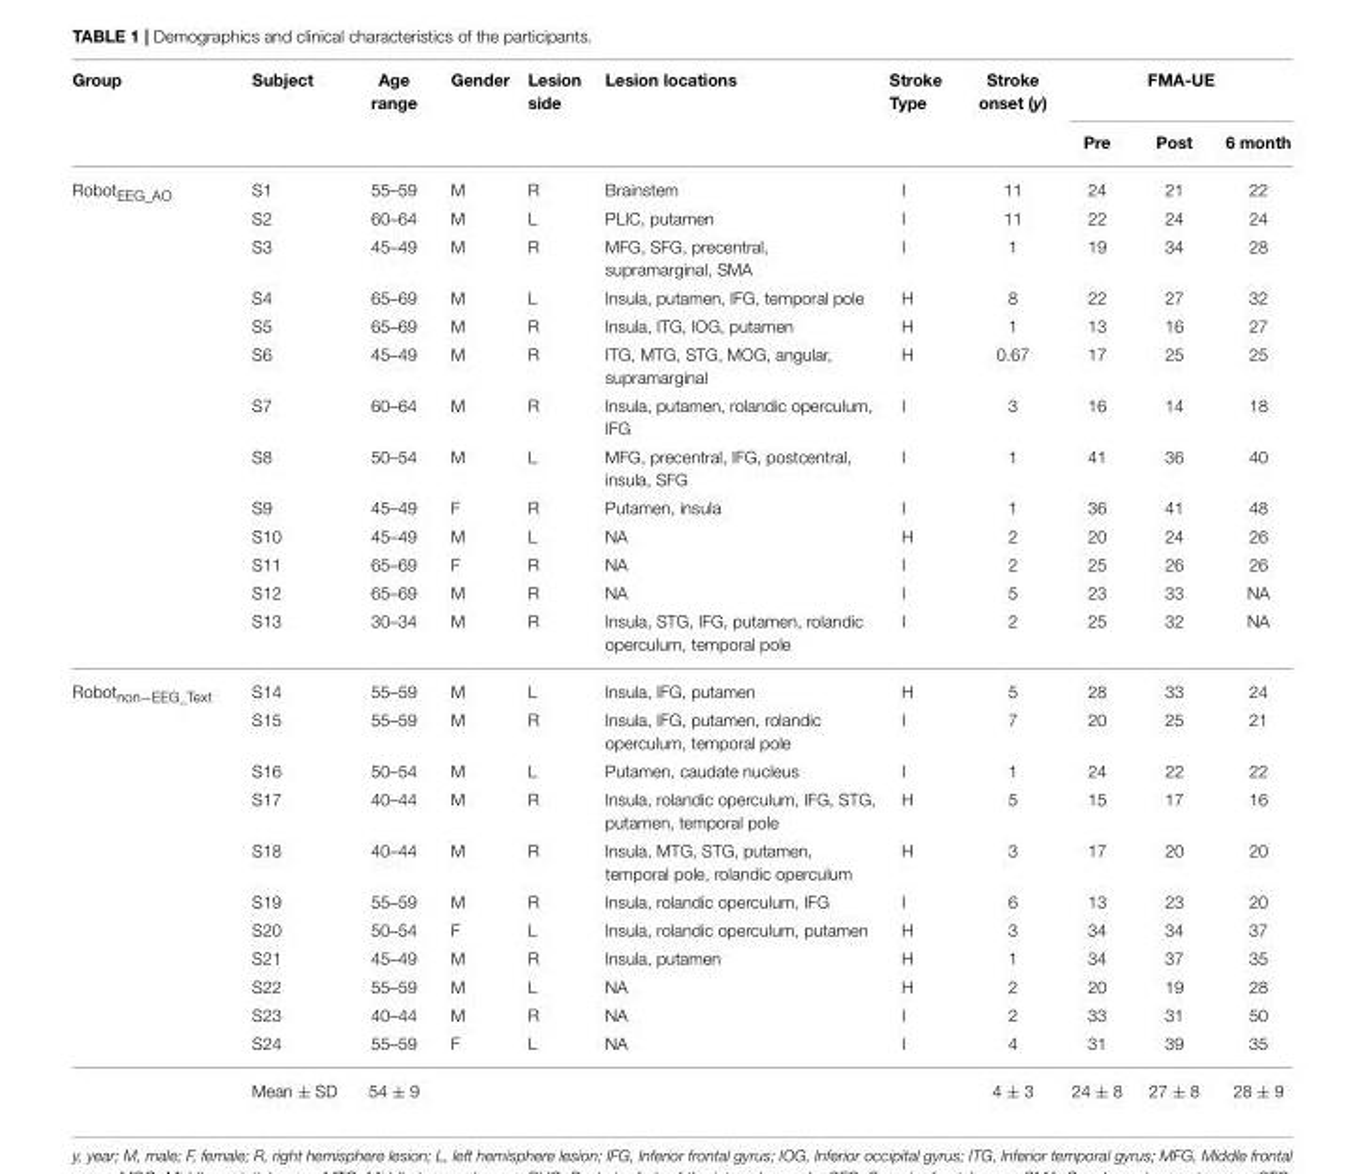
<table><thead><tr><td rowspan="2">Group</td><td rowspan="2">Subject</td><td rowspan="2">Age range</td><td rowspan="2">Gender</td><td rowspan="2">Lesion side</td><td rowspan="2">Lesion locations</td><td rowspan="2">Stroke Type</td><td rowspan="2">Stroke onset (y)</td><td colspan="3">FMA-UE</td></tr><tr><td>Pre</td><td>Post</td><td>6 month</td></tr></thead><tbody><tr><td rowspan="13">Robot<sub>EEG_AO</sub></td><td>S1</td><td>55–59</td><td>M</td><td>R</td><td>Brainstem</td><td>I</td><td>11</td><td>24</td><td>21</td><td>22</td></tr><tr><td>S2</td><td>60–64</td><td>M</td><td>L</td><td>PLIC, putamen</td><td>I</td><td>11</td><td>22</td><td>24</td><td>24</td></tr><tr><td>S3</td><td>45–49</td><td>M</td><td>R</td><td>MFG, SFG, precentral, supramarginal, SMA</td><td>I</td><td>1</td><td>19</td><td>34</td><td>28</td></tr><tr><td>S4</td><td>65–69</td><td>M</td><td>L</td><td>Insula, putamen, IFG, temporal pole</td><td>H</td><td>8</td><td>22</td><td>27</td><td>32</td></tr><tr><td>S5</td><td>65–69</td><td>M</td><td>R</td><td>Insula, ITG, IOG, putamen</td><td>H</td><td>1</td><td>13</td><td>16</td><td>27</td></tr><tr><td>S6</td><td>45–49</td><td>M</td><td>R</td><td>ITG, MTG, STG, MOG, angular, supramarginal</td><td>H</td><td>0.67</td><td>17</td><td>25</td><td>25</td></tr><tr><td>S7</td><td>60–64</td><td>M</td><td>R</td><td>Insula, putamen, rolandic operculum, IFG</td><td>I</td><td>3</td><td>16</td><td>14</td><td>18</td></tr><tr><td>S8</td><td>50–54</td><td>M</td><td>L</td><td>MFG, precentral, IFG, postcentral, insula, SFG</td><td>I</td><td>1</td><td>41</td><td>36</td><td>40</td></tr><tr><td>S9</td><td>45–49</td><td>F</td><td>R</td><td>Putamen, insula</td><td>I</td><td>1</td><td>36</td><td>41</td><td>48</td></tr><tr><td>S10</td><td>45–49</td><td>M</td><td>L</td><td>NA</td><td>H</td><td>2</td><td>20</td><td>24</td><td>26</td></tr><tr><td>S11</td><td>65–69</td><td>F</td><td>R</td><td>NA</td><td>I</td><td>2</td><td>25</td><td>26</td><td>26</td></tr><tr><td>S12</td><td>65–69</td><td>M</td><td>R</td><td>NA</td><td>I</td><td>5</td><td>23</td><td>33</td><td>NA</td></tr><tr><td>S13</td><td>30–34</td><td>M</td><td>R</td><td>Insula, STG, IFG, putamen, rolandic operculum, temporal pole</td><td>I</td><td>2</td><td>25</td><td>32</td><td>NA</td></tr><tr><td rowspan="12">Robot<sub>non−EEG_Text</sub></td><td>S14</td><td>55–59</td><td>M</td><td>L</td><td>Insula, IFG, putamen</td><td>H</td><td>5</td><td>28</td><td>33</td><td>24</td></tr><tr><td>S15</td><td>55–59</td><td>M</td><td>R</td><td>Insula, IFG, putamen, rolandic operculum, temporal pole</td><td>I</td><td>7</td><td>20</td><td>25</td><td>21</td></tr><tr><td>S16</td><td>50–54</td><td>M</td><td>L</td><td>Putamen, caudate nucleus</td><td>I</td><td>1</td><td>24</td><td>22</td><td>22</td></tr><tr><td>S17</td><td>40–44</td><td>M</td><td>R</td><td>Insula, rolandic operculum, IFG, STG, putamen, temporal pole</td><td>H</td><td>5</td><td>15</td><td>17</td><td>16</td></tr><tr><td>S18</td><td>40–44</td><td>M</td><td>R</td><td>Insula, MTG, STG, putamen, temporal pole, rolandic operculum</td><td>H</td><td>3</td><td>17</td><td>20</td><td>20</td></tr><tr><td>S19</td><td>55–59</td><td>M</td><td>R</td><td>Insula, rolandic operculum, IFG</td><td>I</td><td>6</td><td>13</td><td>23</td><td>20</td></tr><tr><td>S20</td><td>50–54</td><td>F</td><td>L</td><td>Insula, rolandic operculum, putamen</td><td>H</td><td>3</td><td>34</td><td>34</td><td>37</td></tr><tr><td>S21</td><td>45–49</td><td>M</td><td>R</td><td>Insula, putamen</td><td>H</td><td>1</td><td>34</td><td>37</td><td>35</td></tr><tr><td>S22</td><td>55–59</td><td>M</td><td>L</td><td>NA</td><td>H</td><td>2</td><td>20</td><td>19</td><td>28</td></tr><tr><td>S23</td><td>40–44</td><td>M</td><td>R</td><td>NA</td><td>I</td><td>2</td><td>33</td><td>31</td><td>50</td></tr><tr><td>S24</td><td>55–59</td><td>F</td><td>L</td><td>NA</td><td>I</td><td>4</td><td>31</td><td>39</td><td>35</td></tr><tr><td>Mean ± SD</td><td>54 ± 9</td><td></td><td></td><td></td><td></td><td>4 ± 3</td><td>24 ± 8</td><td>27 ± 8</td><td>28 ± 9</td></tr></tbody></table>